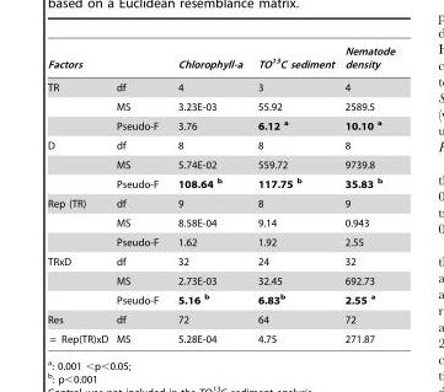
<table><thead><tr><td>Factors</td><td></td><td>Chlorophyll-a</td><td>TO<sup>13</sup>C sediment</td><td>Nematode density</td></tr></thead><tbody><tr><td rowspan="3">TR</td><td>df</td><td>4</td><td>3</td><td>4</td></tr><tr><td>MS</td><td>3.23E-03</td><td>55.92</td><td>2589.5</td></tr><tr><td>Pseudo-F</td><td>3.76</td><td>6.12 a</td><td>10.10 a</td></tr><tr><td rowspan="3">D</td><td>df</td><td>8</td><td>8</td><td>8</td></tr><tr><td>MS</td><td>5.74E-02</td><td>559.72</td><td>9739.8</td></tr><tr><td>Pseudo-F</td><td>108.64 b</td><td>117.75 b</td><td>35.83 b</td></tr><tr><td rowspan="3">Rep (TR)</td><td>df</td><td>9</td><td>8</td><td>9</td></tr><tr><td>MS</td><td>8.58E-04</td><td>9.14</td><td>0.943</td></tr><tr><td>Pseudo-F</td><td>1.62</td><td>1.92</td><td>2.55</td></tr><tr><td rowspan="3">TRxD</td><td>df</td><td>32</td><td>24</td><td>32</td></tr><tr><td>MS</td><td>2.73E-03</td><td>32.45</td><td>692.73</td></tr><tr><td>Pseudo-F</td><td>5.16 b</td><td>6.83b</td><td>2.55 a</td></tr><tr><td>Res</td><td>df</td><td>72</td><td>64</td><td>72</td></tr><tr><td>= Rep(TR)xD</td><td>MS</td><td>5.28E-04</td><td>4.75</td><td>271.87</td></tr></tbody></table>